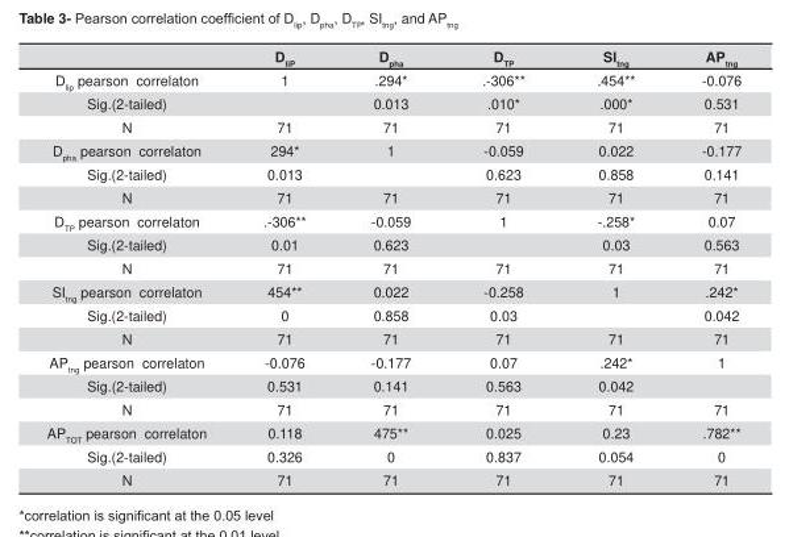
<table><thead><tr><td></td><td>D<sub>liP</sub></td><td>D<sub>pha</sub></td><td>D<sub>TP</sub></td><td>SI<sub>tng</sub></td><td>AP<sub>tng</sub></td></tr></thead><tbody><tr><td>D<sub>lip</sub> pearson correlaton</td><td>1</td><td>.294*</td><td>.-306**</td><td>.454**</td><td>-0.076</td></tr><tr><td>Sig.(2-tailed)</td><td></td><td>0.013</td><td>.010*</td><td>.000*</td><td>0.531</td></tr><tr><td>N</td><td>71</td><td>71</td><td>71</td><td>71</td><td>71</td></tr><tr><td>D<sub>pha</sub> pearson correlaton</td><td>294*</td><td>1</td><td>-0.059</td><td>0.022</td><td>-0.177</td></tr><tr><td>Sig.(2-tailed)</td><td>0.013</td><td></td><td>0.623</td><td>0.858</td><td>0.141</td></tr><tr><td>N</td><td>71</td><td>71</td><td>71</td><td>71</td><td>71</td></tr><tr><td>D<sub>TP</sub> pearson correlaton</td><td>.-306**</td><td>-0.059</td><td>1</td><td>-.258*</td><td>0.07</td></tr><tr><td>Sig.(2-tailed)</td><td>0.01</td><td>0.623</td><td></td><td>0.03</td><td>0.563</td></tr><tr><td>N</td><td>71</td><td>71</td><td>71</td><td>71</td><td>71</td></tr><tr><td>SI<sub>tng</sub> pearson correlaton</td><td>454**</td><td>0.022</td><td>-0.258</td><td>1</td><td>.242*</td></tr><tr><td>Sig.(2-tailed)</td><td>0</td><td>0.858</td><td>0.03</td><td></td><td>0.042</td></tr><tr><td>N</td><td>71</td><td>71</td><td>71</td><td>71</td><td>71</td></tr><tr><td>AP<sub>tng</sub> pearson correlaton</td><td>-0.076</td><td>-0.177</td><td>0.07</td><td>.242*</td><td>1</td></tr><tr><td>Sig.(2-tailed)</td><td>0.531</td><td>0.141</td><td>0.563</td><td>0.042</td><td></td></tr><tr><td>N</td><td>71</td><td>71</td><td>71</td><td>71</td><td>71</td></tr><tr><td>AP<sub>TOT</sub> pearson correlaton</td><td>0.118</td><td>475**</td><td>0.025</td><td>0.23</td><td>.782**</td></tr><tr><td>Sig.(2-tailed)</td><td>0.326</td><td>0</td><td>0.837</td><td>0.054</td><td>0</td></tr><tr><td>N</td><td>71</td><td>71</td><td>71</td><td>71</td><td>71</td></tr></tbody></table>